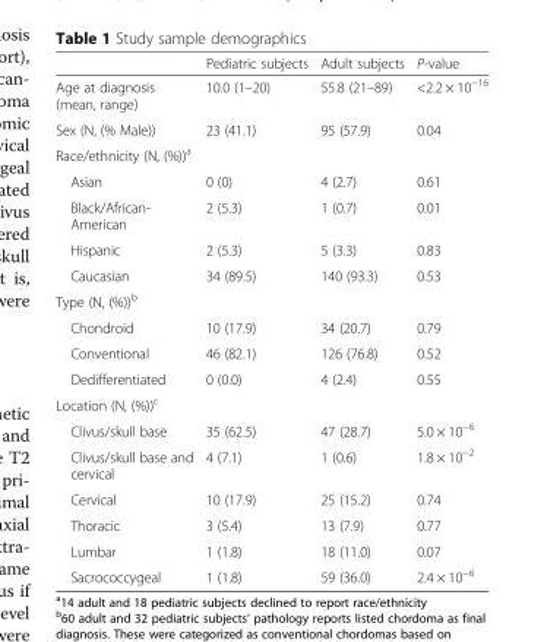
<table><thead><tr><td></td><td>Pediatric subjects</td><td>Adult subjects</td><td>P-value</td></tr></thead><tbody><tr><td>Age at diagnosis (mean, range)</td><td>10.0 (1–20)</td><td>55.8 (21–89)</td><td>&lt;2.2 × 10<sup>−16</sup></td></tr><tr><td>Sex (N, (% Male))</td><td>23 (41.1)</td><td>95 (57.9)</td><td>0.04</td></tr><tr><td colspan="4">Race/ethnicity (N, (%))<sup>a</sup></td></tr><tr><td>Asian</td><td>0 (0)</td><td>4 (2.7)</td><td>0.61</td></tr><tr><td>Black/African- American</td><td>2 (5.3)</td><td>1 (0.7)</td><td>0.01</td></tr><tr><td>Hispanic</td><td>2 (5.3)</td><td>5 (3.3)</td><td>0.83</td></tr><tr><td>Caucasian</td><td>34 (89.5)</td><td>140 (93.3)</td><td>0.53</td></tr><tr><td colspan="4">Type (N, (%))<sup>b</sup></td></tr><tr><td>Chondroid</td><td>10 (17.9)</td><td>34 (20.7)</td><td>0.79</td></tr><tr><td>Conventional</td><td>46 (82.1)</td><td>126 (76.8)</td><td>0.52</td></tr><tr><td>Dedifferentiated</td><td>0 (0.0)</td><td>4 (2.4)</td><td>0.55</td></tr><tr><td colspan="4">Location (N, (%))<sup>c</sup></td></tr><tr><td>Clivus/skull base</td><td>35 (62.5)</td><td>47 (28.7)</td><td>5.0 × 10<sup>−6</sup></td></tr><tr><td>Clivus/skull base and cervical</td><td>4 (7.1)</td><td>1 (0.6)</td><td>1.8 × 10<sup>−2</sup></td></tr><tr><td>Cervical</td><td>10 (17.9)</td><td>25 (15.2)</td><td>0.74</td></tr><tr><td>Thoracic</td><td>3 (5.4)</td><td>13 (7.9)</td><td>0.77</td></tr><tr><td>Lumbar</td><td>1 (1.8)</td><td>18 (11.0)</td><td>0.07</td></tr><tr><td>Sacrococcygeal</td><td>1 (1.8)</td><td>59 (36.0)</td><td>2.4 × 10<sup>−6</sup></td></tr></tbody></table>